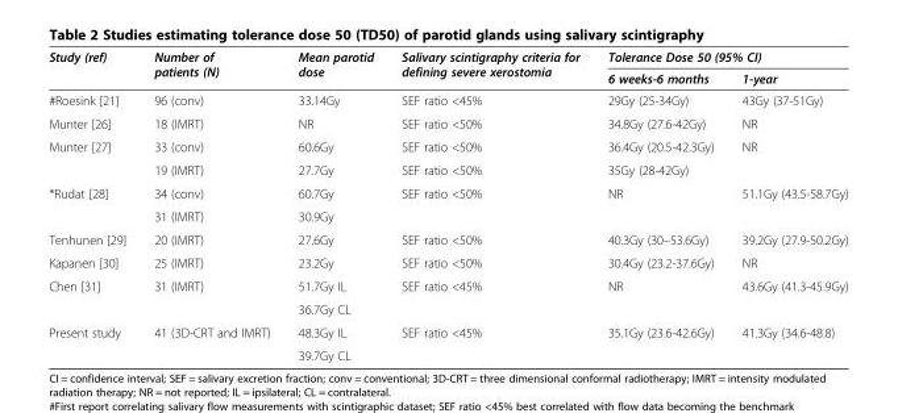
<table><thead><tr><td rowspan="2">Study (ref)</td><td rowspan="2">Number of patients (N)</td><td rowspan="2">Mean parotid dose</td><td rowspan="2">Salivary scintigraphy criteria for defining severe xerostomia</td><td colspan="2">Tolerance Dose 50 (95% CI)</td></tr><tr><td>6 weeks-6 months</td><td>1-year</td></tr></thead><tbody><tr><td>#Roesink [21]</td><td>96 (conv)</td><td>33.14Gy</td><td>SEF ratio &lt;45%</td><td>29Gy (25-34Gy)</td><td>43Gy (37-51Gy)</td></tr><tr><td>Munter [26]</td><td>18 (IMRT)</td><td>NR</td><td>SEF ratio &lt;50%</td><td>34.8Gy (27.6-42Gy)</td><td>NR</td></tr><tr><td rowspan="2">Munter [27]</td><td>33 (conv)</td><td>60.6Gy</td><td>SEF ratio &lt;50%</td><td>36.4Gy (20.5-42.3Gy)</td><td rowspan="2">NR</td></tr><tr><td>19 (IMRT)</td><td>27.7Gy</td><td>SEF ratio &lt;50%</td><td>35Gy (28-42Gy)</td></tr><tr><td rowspan="2">*Rudat [28]</td><td>34 (conv)</td><td>60.7Gy</td><td rowspan="2">SEF ratio &lt;50%</td><td rowspan="2">NR</td><td rowspan="2">51.1Gy (43.5-58.7Gy)</td></tr><tr><td>31 (IMRT)</td><td>30.9Gy</td></tr><tr><td>Tenhunen [29]</td><td>20 (IMRT)</td><td>27.6Gy</td><td>SEF ratio &lt;50%</td><td>40.3Gy (30–53.6Gy)</td><td>39.2Gy (27.9-50.2Gy)</td></tr><tr><td>Kapanen [30]</td><td>25 (IMRT)</td><td>23.2Gy</td><td>SEF ratio &lt;50%</td><td>30.4Gy (23.2-37.6Gy)</td><td>NR</td></tr><tr><td rowspan="2">Chen [31]</td><td rowspan="2">31 (IMRT)</td><td>51.7Gy IL</td><td rowspan="2">SEF ratio &lt;45%</td><td rowspan="2">NR</td><td rowspan="2">43.6Gy (41.3-45.9Gy)</td></tr><tr><td>36.7Gy CL</td></tr><tr><td rowspan="2">Present study</td><td rowspan="2">41 (3D-CRT and IMRT)</td><td>48.3Gy IL</td><td rowspan="2">SEF ratio &lt;45%</td><td rowspan="2">35.1Gy (23.6-42.6Gy)</td><td rowspan="2">41.3Gy (34.6-48.8)</td></tr><tr><td>39.7Gy CL</td></tr></tbody></table>